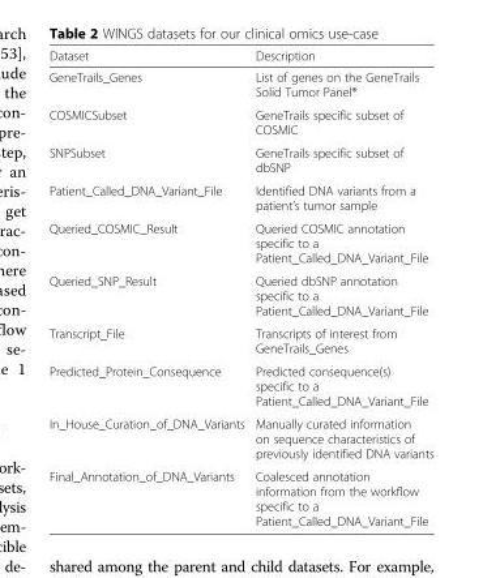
<table><thead><tr><td>Dataset</td><td>Description</td></tr></thead><tbody><tr><td>GeneTrails_Genes</td><td>List of genes on the GeneTrails Solid Tumor Panel®</td></tr><tr><td>COSMICSubset</td><td>GeneTrails specific subset of COSMIC</td></tr><tr><td>SNPSubset</td><td>GeneTrails specific subset of dbSNP</td></tr><tr><td>Patient_Called_DNA_Variant_File</td><td>Identified DNA variants from a patient’s tumor sample</td></tr><tr><td>Queried_COSMIC_Result</td><td>Queried COSMIC annotation specific to a Patient_Called_DNA_Variant_File</td></tr><tr><td>Queried_SNP_Result</td><td>Queried dbSNP annotation specific to a Patient_Called_DNA_Variant_File</td></tr><tr><td>Transcript_File</td><td>Transcripts of interest from GeneTrails_Genes</td></tr><tr><td>Predicted_Protein_Consequence</td><td>Predicted consequence(s) specific to a Patient_Called_DNA_Variant_File</td></tr><tr><td>In_House_Curation_of_DNA_Variants</td><td>Manually curated information on sequence characteristics of previously identified DNA variants</td></tr><tr><td>Final_Annotation_of_DNA_Variants</td><td>Coalesced annotation information from the workflow specific to a Patient_Called_DNA_Variant_File</td></tr></tbody></table>